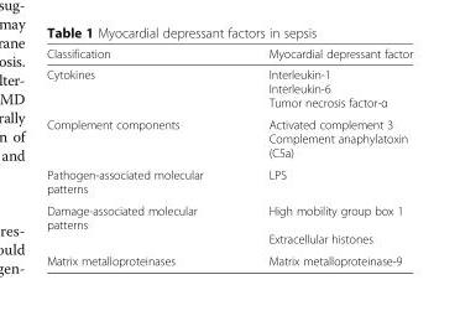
<table><thead><tr><td>Classification</td><td>Myocardial depressant factor</td></tr></thead><tbody><tr><td>Cytokines</td><td>Interleukin-1 Interleukin-6 Tumor necrosis factor-α</td></tr><tr><td>Complement components</td><td>Activated complement 3 Complement anaphylatoxin (C5a)</td></tr><tr><td>Pathogen-associated molecular patterns</td><td>LPS</td></tr><tr><td>Damage-associated molecular patterns</td><td>High mobility group box 1 Extracellular histones</td></tr><tr><td>Matrix metalloproteinases</td><td>Matrix metalloproteinase-9</td></tr></tbody></table>